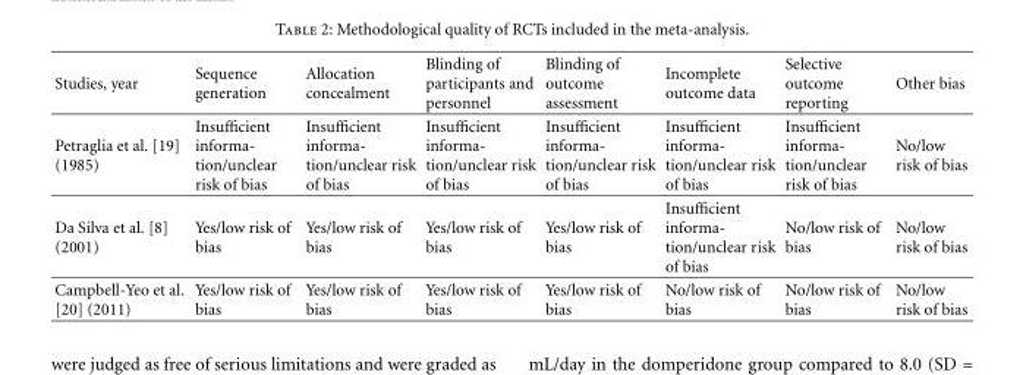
<table><thead><tr><td>Studies, year</td><td>Sequence generation</td><td>Allocation concealment</td><td>Blinding of participants and personnel</td><td>Blinding of outcome assessment</td><td>Incomplete outcome data</td><td>Selective outcome reporting</td><td>Other bias</td></tr></thead><tbody><tr><td>Petraglia et al. [19] (1985)</td><td>Insufficient informa- tion/unclear risk of bias</td><td>Insufficient informa- tion/unclear risk of bias</td><td>Insufficient informa- tion/unclear risk of bias</td><td>Insufficient informa- tion/unclear risk of bias</td><td>Insufficient informa- tion/unclear risk of bias</td><td>Insufficient informa- tion/unclear risk of bias</td><td>No/low risk of bias</td></tr><tr><td>Da Silva et al. [8] (2001)</td><td>Yes/low risk of bias</td><td>Yes/low risk of bias</td><td>Yes/low risk of bias</td><td>Yes/low risk of bias</td><td>Insufficient informa- tion/unclear risk of bias</td><td>No/low risk of bias</td><td>No/low risk of bias</td></tr><tr><td>Campbell-Yeo et al. [20] (2011)</td><td>Yes/low risk of bias</td><td>Yes/low risk of bias</td><td>Yes/low risk of bias</td><td>Yes/low risk of bias</td><td>No/low risk of bias</td><td>No/low risk of bias</td><td>No/low risk of bias</td></tr></tbody></table>